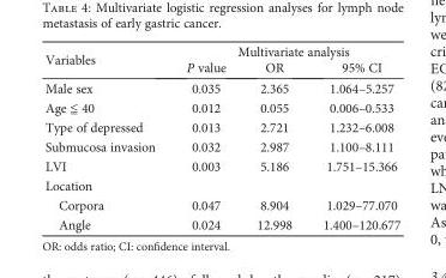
<table><thead><tr><td rowspan="2">Variables</td><td colspan="3">Multivariate analysis</td></tr><tr><td>P value</td><td>OR</td><td>95% CI</td></tr></thead><tbody><tr><td>Male sex</td><td>0.035</td><td>2.365</td><td>1.064–5.257</td></tr><tr><td>Age ≦ 40</td><td>0.012</td><td>0.055</td><td>0.006–0.533</td></tr><tr><td>Type of depressed</td><td>0.013</td><td>2.721</td><td>1.232–6.008</td></tr><tr><td>Submucosa invasion</td><td>0.032</td><td>2.987</td><td>1.100–8.111</td></tr><tr><td>LVI</td><td>0.003</td><td>5.186</td><td>1.751–15.366</td></tr><tr><td colspan="4">Location</td></tr><tr><td>Corpora</td><td>0.047</td><td>8.904</td><td>1.029–77.070</td></tr><tr><td>Angle</td><td>0.024</td><td>12.998</td><td>1.400–120.677</td></tr></tbody></table>